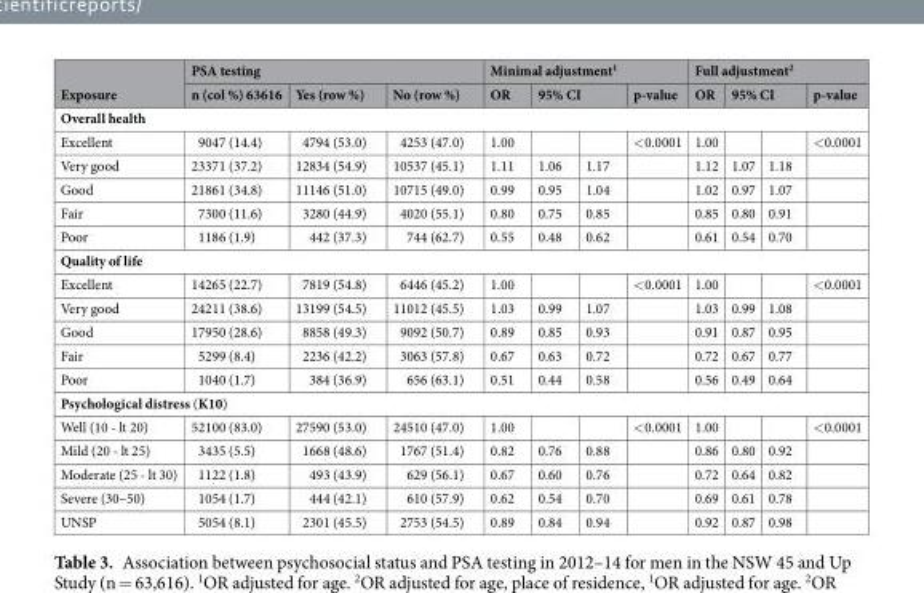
<table><thead><tr><td rowspan="2">Exposure</td><td colspan="3">PSA testing</td><td colspan="4">Minimal adjustment<sup>1</sup></td><td colspan="4">Full adjustment<sup>2</sup></td></tr><tr><td>n (col %) 63616</td><td>Yes (row %)</td><td>No (row %)</td><td>OR</td><td colspan="2">95% CI</td><td>p-value</td><td>OR</td><td colspan="2">95% CI</td><td>p-value</td></tr><tr><td colspan="12">Overall health</td></tr><tr><td>Excellent</td><td>9047 (14.4)</td><td>4794 (53.0)</td><td>4253 (47.0)</td><td>1.00</td><td></td><td></td><td>&lt;0.0001</td><td>1.00</td><td></td><td></td><td>&lt;0.0001</td></tr></thead><tbody><tr><td>Very good</td><td>23371 (37.2)</td><td>12834 (54.9)</td><td>10537 (45.1)</td><td>1.11</td><td>1.06</td><td>1.17</td><td></td><td>1.12</td><td>1.07</td><td>1.18</td><td></td></tr><tr><td>Good</td><td>21861 (34.8)</td><td>11146 (51.0)</td><td>10715 (49.0)</td><td>0.99</td><td>0.95</td><td>1.04</td><td></td><td>1.02</td><td>0.97</td><td>1.07</td><td></td></tr><tr><td>Fair</td><td>7300 (11.6)</td><td>3280 (44.9)</td><td>4020 (55.1)</td><td>0.80</td><td>0.75</td><td>0.85</td><td></td><td>0.85</td><td>0.80</td><td>0.91</td><td></td></tr><tr><td>Poor</td><td>1186 (1.9)</td><td>442 (37.3)</td><td>744 (62.7)</td><td>0.55</td><td>0.48</td><td>0.62</td><td></td><td>0.61</td><td>0.54</td><td>0.70</td><td></td></tr><tr><td colspan="12">Quality of life</td></tr><tr><td>Excellent</td><td>14265 (22.7)</td><td>7819 (54.8)</td><td>6446 (45.2)</td><td>1.00</td><td></td><td></td><td>&lt;0.0001</td><td>1.00</td><td></td><td></td><td>&lt;0.0001</td></tr><tr><td>Very good</td><td>24211 (38.6)</td><td>13199 (54.5)</td><td>11012 (45.5)</td><td>1.03</td><td>0.99</td><td>1.07</td><td></td><td>1.03</td><td>0.99</td><td>1.08</td><td></td></tr><tr><td>Good</td><td>17950 (28.6)</td><td>8858 (49.3)</td><td>9092 (50.7)</td><td>0.89</td><td>0.85</td><td>0.93</td><td></td><td>0.91</td><td>0.87</td><td>0.95</td><td></td></tr><tr><td>Fair</td><td>5299 (8.4)</td><td>2236 (42.2)</td><td>3063 (57.8)</td><td>0.67</td><td>0.63</td><td>0.72</td><td></td><td>0.72</td><td>0.67</td><td>0.77</td><td></td></tr><tr><td>Poor</td><td>1040 (1.7)</td><td>384 (36.9)</td><td>656 (63.1)</td><td>0.51</td><td>0.44</td><td>0.58</td><td></td><td>0.56</td><td>0.49</td><td>0.64</td><td></td></tr><tr><td colspan="12">Psychological distress (K10)</td></tr><tr><td>Well (10 - lt 20)</td><td>52100 (83.0)</td><td>27590 (53.0)</td><td>24510 (47.0)</td><td>1.00</td><td></td><td></td><td>&lt;0.0001</td><td>1.00</td><td></td><td></td><td>&lt;0.0001</td></tr><tr><td>Mild (20 - lt 25)</td><td>3435 (5.5)</td><td>1668 (48.6)</td><td>1767 (51.4)</td><td>0.82</td><td>0.76</td><td>0.88</td><td></td><td>0.86</td><td>0.80</td><td>0.92</td><td></td></tr><tr><td>Moderate (25 - lt 30)</td><td>1122 (1.8)</td><td>493 (43.9)</td><td>629 (56.1)</td><td>0.67</td><td>0.60</td><td>0.76</td><td></td><td>0.72</td><td>0.64</td><td>0.82</td><td></td></tr><tr><td>Severe (30–50)</td><td>1054 (1.7)</td><td>444 (42.1)</td><td>610 (57.9)</td><td>0.62</td><td>0.54</td><td>0.70</td><td></td><td>0.69</td><td>0.61</td><td>0.78</td><td></td></tr><tr><td>UNSP</td><td>5054 (8.1)</td><td>2301 (45.5)</td><td>2753 (54.5)</td><td>0.89</td><td>0.84</td><td>0.94</td><td></td><td>0.92</td><td>0.87</td><td>0.98</td><td></td></tr></tbody></table>